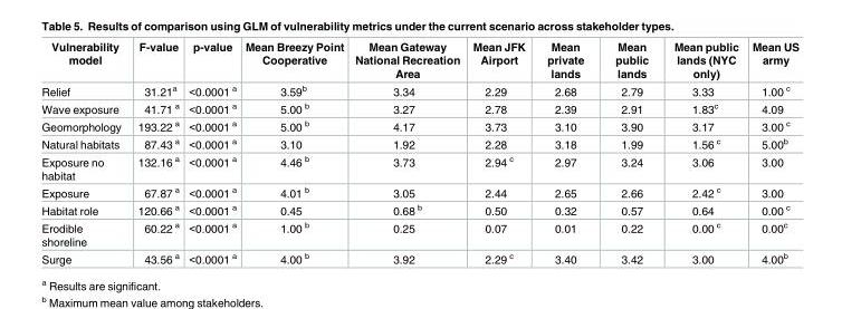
<table><thead><tr><td>Vulnerability model</td><td>F-value</td><td>p-value</td><td>Mean Breezy Point Cooperative</td><td>Mean Gateway National Recreation Area</td><td>Mean JFK Airport</td><td>Mean private lands</td><td>Mean public lands</td><td>Mean public lands (NYC only)</td><td>Mean US army</td></tr></thead><tbody><tr><td>Relief</td><td>31.21<sup>a</sup></td><td>&lt;0.0001 <sup>a</sup></td><td>3.59<sup>b</sup></td><td>3.34</td><td>2.29</td><td>2.68</td><td>2.79</td><td>3.33</td><td>1.00 <sup>c</sup></td></tr><tr><td>Wave exposure</td><td>41.71 <sup>a</sup></td><td>&lt;0.0001 <sup>a</sup></td><td>5.00 <sup>b</sup></td><td>3.27</td><td>2.78</td><td>2.39</td><td>2.91</td><td>1.83<sup>c</sup></td><td>4.09</td></tr><tr><td>Geomorphology</td><td>193.22 <sup>a</sup></td><td>&lt;0.0001 <sup>a</sup></td><td>5.00 <sup>b</sup></td><td>4.17</td><td>3.73</td><td>3.10</td><td>3.90</td><td>3.17</td><td>3.00 <sup>c</sup></td></tr><tr><td>Natural habitats</td><td>87.43 <sup>a</sup></td><td>&lt;0.0001 <sup>a</sup></td><td>3.10</td><td>1.92</td><td>2.28</td><td>3.18</td><td>1.99</td><td>1.56 <sup>c</sup></td><td>5.00<sup>b</sup></td></tr><tr><td>Exposure no habitat</td><td>132.16 <sup>a</sup></td><td>&lt;0.0001 <sup>a</sup></td><td>4.46 <sup>b</sup></td><td>3.73</td><td>2.94 <sup>c</sup></td><td>2.97</td><td>3.24</td><td>3.06</td><td>3.00</td></tr><tr><td>Exposure</td><td>67.87 <sup>a</sup></td><td>&lt;0.0001 <sup>a</sup></td><td>4.01 <sup>b</sup></td><td>3.05</td><td>2.44</td><td>2.65</td><td>2.66</td><td>2.42 <sup>c</sup></td><td>3.00</td></tr><tr><td>Habitat role</td><td>120.66 <sup>a</sup></td><td>&lt;0.0001 <sup>a</sup></td><td>0.45</td><td>0.68 <sup>b</sup></td><td>0.50</td><td>0.32</td><td>0.57</td><td>0.64</td><td>0.00 <sup>c</sup></td></tr><tr><td>Erodible shoreline</td><td>60.22 <sup>a</sup></td><td>&lt;0.0001 <sup>a</sup></td><td>1.00 <sup>b</sup></td><td>0.25</td><td>0.07</td><td>0.01</td><td>0.22</td><td>0.00 <sup>c</sup></td><td>0.00<sup>c</sup></td></tr><tr><td>Surge</td><td>43.56 <sup>a</sup></td><td>&lt;0.0001 <sup>a</sup></td><td>4.00 <sup>b</sup></td><td>3.92</td><td>2.29 <sup>c</sup></td><td>3.40</td><td>3.42</td><td>3.00</td><td>4.00<sup>b</sup></td></tr></tbody></table>